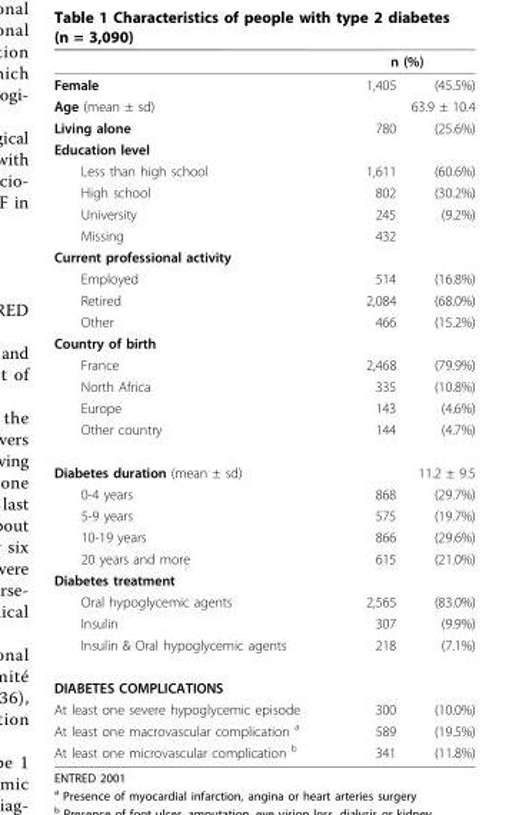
<table><thead><tr><td rowspan="2">Female</td><td colspan="2">n (%)</td></tr><tr><td>1,405</td><td>(45.5%)</td></tr></thead><tbody><tr><td>Age (mean ± sd)</td><td colspan="2">63.9 ± 10.4</td></tr><tr><td>Living alone</td><td>780</td><td>(25.6%)</td></tr><tr><td colspan="3">Education level</td></tr><tr><td>Less than high school</td><td>1,611</td><td>(60.6%)</td></tr><tr><td>High school</td><td>802</td><td>(30.2%)</td></tr><tr><td>University</td><td>245</td><td>(9.2%)</td></tr><tr><td>Missing</td><td>432</td><td></td></tr><tr><td colspan="3">Current professional activity</td></tr><tr><td>Employed</td><td>514</td><td>(16.8%)</td></tr><tr><td>Retired</td><td>2,084</td><td>(68.0%)</td></tr><tr><td>Other</td><td>466</td><td>(15.2%)</td></tr><tr><td colspan="3">Country of birth</td></tr><tr><td>France</td><td>2,468</td><td>(79.9%)</td></tr><tr><td>North Africa</td><td>335</td><td>(10.8%)</td></tr><tr><td>Europe</td><td>143</td><td>(4.6%)</td></tr><tr><td>Other country</td><td>144</td><td>(4.7%)</td></tr><tr><td>Diabetes duration (mean ± sd)</td><td colspan="2">11.2 ± 9.5</td></tr><tr><td>0-4 years</td><td>868</td><td>(29.7%)</td></tr><tr><td>5-9 years</td><td>575</td><td>(19.7%)</td></tr><tr><td>10-19 years</td><td>866</td><td>(29.6%)</td></tr><tr><td>20 years and more</td><td>615</td><td>(21.0%)</td></tr><tr><td colspan="3">Diabetes treatment</td></tr><tr><td>Oral hypoglycemic agents</td><td>2,565</td><td>(83.0%)</td></tr><tr><td>Insulin</td><td>307</td><td>(9.9%)</td></tr><tr><td>Insulin &amp; Oral hypoglycemic agents</td><td>218</td><td>(7.1%)</td></tr><tr><td colspan="3">DIABETES COMPLICATIONS</td></tr><tr><td>At least one severe hypoglycemic episode</td><td>300</td><td>(10.0%)</td></tr><tr><td>At least one macrovascular complication <sup>a</sup></td><td>589</td><td>(19.5%)</td></tr><tr><td>At least one microvascular complication <sup>b</sup></td><td>341</td><td>(11.8%)</td></tr></tbody></table>